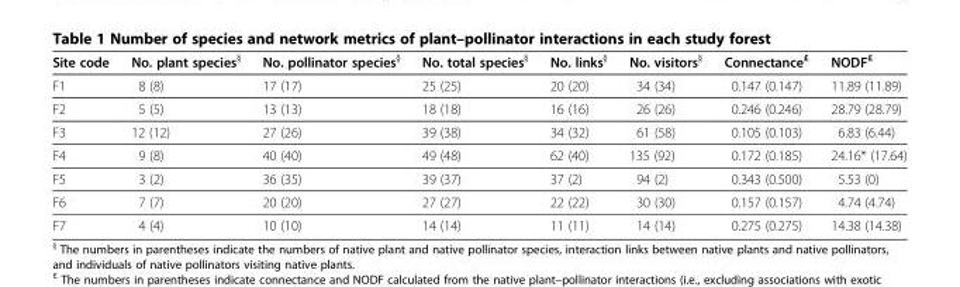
<table><thead><tr><td>Site code</td><td>No. plant species<sup>§</sup></td><td>No. pollinator species<sup>§</sup></td><td>No. total species<sup>§</sup></td><td>No. links<sup>§</sup></td><td>No. visitors<sup>§</sup></td><td>Connectance<sup>£</sup></td><td>NODF<sup>£</sup></td></tr></thead><tbody><tr><td>F1</td><td>8 (8)</td><td>17 (17)</td><td>25 (25)</td><td>20 (20)</td><td>34 (34)</td><td>0.147 (0.147)</td><td>11.89 (11.89)</td></tr><tr><td>F2</td><td>5 (5)</td><td>13 (13)</td><td>18 (18)</td><td>16 (16)</td><td>26 (26)</td><td>0.246 (0.246)</td><td>28.79 (28.79)</td></tr><tr><td>F3</td><td>12 (12)</td><td>27 (26)</td><td>39 (38)</td><td>34 (32)</td><td>61 (58)</td><td>0.105 (0.103)</td><td>6.83 (6.44)</td></tr><tr><td>F4</td><td>9 (8)</td><td>40 (40)</td><td>49 (48)</td><td>62 (40)</td><td>135 (92)</td><td>0.172 (0.185)</td><td>24.16* (17.64)</td></tr><tr><td>F5</td><td>3 (2)</td><td>36 (35)</td><td>39 (37)</td><td>37 (2)</td><td>94 (2)</td><td>0.343 (0.500)</td><td>5.53 (0)</td></tr><tr><td>F6</td><td>7 (7)</td><td>20 (20)</td><td>27 (27)</td><td>22 (22)</td><td>30 (30)</td><td>0.157 (0.157)</td><td>4.74 (4.74)</td></tr><tr><td>F7</td><td>4 (4)</td><td>10 (10)</td><td>14 (14)</td><td>11 (11)</td><td>14 (14)</td><td>0.275 (0.275)</td><td>14.38 (14.38)</td></tr></tbody></table>